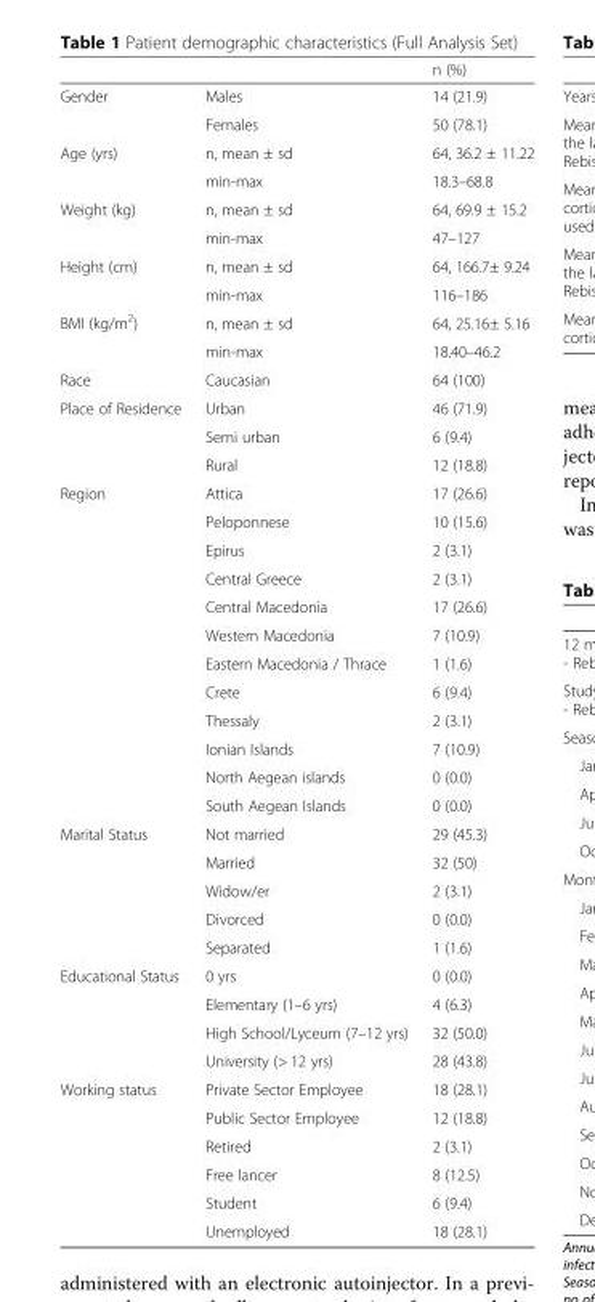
<table><thead><tr><td></td><td></td><td>n (%)</td></tr></thead><tbody><tr><td rowspan="2">Gender</td><td>Males</td><td>14 (21.9)</td></tr><tr><td>Females</td><td>50 (78.1)</td></tr><tr><td rowspan="2">Age (yrs)</td><td>n, mean ± sd</td><td>64, 36.2 ± 11.22</td></tr><tr><td>min-max</td><td>18.3–68.8</td></tr><tr><td rowspan="2">Weight (kg)</td><td>n, mean ± sd</td><td>64, 69.9 ± 15.2</td></tr><tr><td>min-max</td><td>47–127</td></tr><tr><td rowspan="2">Height (cm)</td><td>n, mean ± sd</td><td>64, 166.7± 9.24</td></tr><tr><td>min-max</td><td>116–186</td></tr><tr><td rowspan="2">BMI (kg/m<sup>2</sup>)</td><td>n, mean ± sd</td><td>64, 25.16± 5.16</td></tr><tr><td>min-max</td><td>18.40–46.2</td></tr><tr><td>Race</td><td>Caucasian</td><td>64 (100)</td></tr><tr><td rowspan="3">Place of Residence</td><td>Urban</td><td>46 (71.9)</td></tr><tr><td>Semi urban</td><td>6 (9.4)</td></tr><tr><td>Rural</td><td>12 (18.8)</td></tr><tr><td rowspan="12">Region</td><td>Attica</td><td>17 (26.6)</td></tr><tr><td>Peloponnese</td><td>10 (15.6)</td></tr><tr><td>Epirus</td><td>2 (3.1)</td></tr><tr><td>Central Greece</td><td>2 (3.1)</td></tr><tr><td>Central Macedonia</td><td>17 (26.6)</td></tr><tr><td>Western Macedonia</td><td>7 (10.9)</td></tr><tr><td>Eastern Macedonia / Thrace</td><td>1 (1.6)</td></tr><tr><td>Crete</td><td>6 (9.4)</td></tr><tr><td>Thessaly</td><td>2 (3.1)</td></tr><tr><td>Ionian Islands</td><td>7 (10.9)</td></tr><tr><td>North Aegean islands</td><td>0 (0.0)</td></tr><tr><td>South Aegean Islands</td><td>0 (0.0)</td></tr><tr><td rowspan="5">Marital Status</td><td>Not married</td><td>29 (45.3)</td></tr><tr><td>Married</td><td>32 (50)</td></tr><tr><td>Widow/er</td><td>2 (3.1)</td></tr><tr><td>Divorced</td><td>0 (0.0)</td></tr><tr><td>Separated</td><td>1 (1.6)</td></tr><tr><td rowspan="4">Educational Status</td><td>0 yrs</td><td>0 (0.0)</td></tr><tr><td>Elementary (1–6 yrs)</td><td>4 (6.3)</td></tr><tr><td>High School/Lyceum (7–12 yrs)</td><td>32 (50.0)</td></tr><tr><td>University (&gt; 12 yrs)</td><td>28 (43.8)</td></tr><tr><td rowspan="6">Working status</td><td>Private Sector Employee</td><td>18 (28.1)</td></tr><tr><td>Public Sector Employee</td><td>12 (18.8)</td></tr><tr><td>Retired</td><td>2 (3.1)</td></tr><tr><td>Free lancer</td><td>8 (12.5)</td></tr><tr><td>Student</td><td>6 (9.4)</td></tr><tr><td>Unemployed</td><td>18 (28.1)</td></tr></tbody></table>